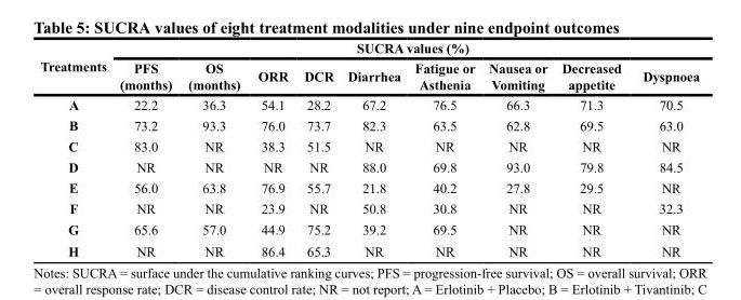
<table><thead><tr><td rowspan="2">Treatments</td><td colspan="9">SUCRA values (%)</td></tr><tr><td>PFS (months)</td><td>OS (months)</td><td>ORR</td><td>DCR</td><td>Diarrhea</td><td>Fatigue or Asthenia</td><td>Nausea or Vomiting</td><td>Decreased appetite</td><td>Dyspnoea</td></tr></thead><tbody><tr><td>A</td><td>22.2</td><td>36.3</td><td>54.1</td><td>28.2</td><td>67.2</td><td>76.5</td><td>66.3</td><td>71.3</td><td>70.5</td></tr><tr><td>B</td><td>73.2</td><td>93.3</td><td>76.0</td><td>73.7</td><td>82.3</td><td>63.5</td><td>62.8</td><td>69.5</td><td>63.0</td></tr><tr><td>C</td><td>83.0</td><td>NR</td><td>38.3</td><td>51.5</td><td>NR</td><td>NR</td><td>NR</td><td>NR</td><td>NR</td></tr><tr><td>D</td><td>NR</td><td>NR</td><td>NR</td><td>NR</td><td>88.0</td><td>69.8</td><td>93.0</td><td>79.8</td><td>84.5</td></tr><tr><td>E</td><td>56.0</td><td>63.8</td><td>76.9</td><td>55.7</td><td>21.8</td><td>40.2</td><td>27.8</td><td>29.5</td><td>NR</td></tr><tr><td>F</td><td>NR</td><td>NR</td><td>23.9</td><td>NR</td><td>50.8</td><td>30.8</td><td>NR</td><td>NR</td><td>32.3</td></tr><tr><td>G</td><td>65.6</td><td>57.0</td><td>44.9</td><td>75.2</td><td>39.2</td><td>69.5</td><td>NR</td><td>NR</td><td>NR</td></tr><tr><td>H</td><td>NR</td><td>NR</td><td>86.4</td><td>65.3</td><td>NR</td><td>NR</td><td>NR</td><td>NR</td><td>NR</td></tr></tbody></table>